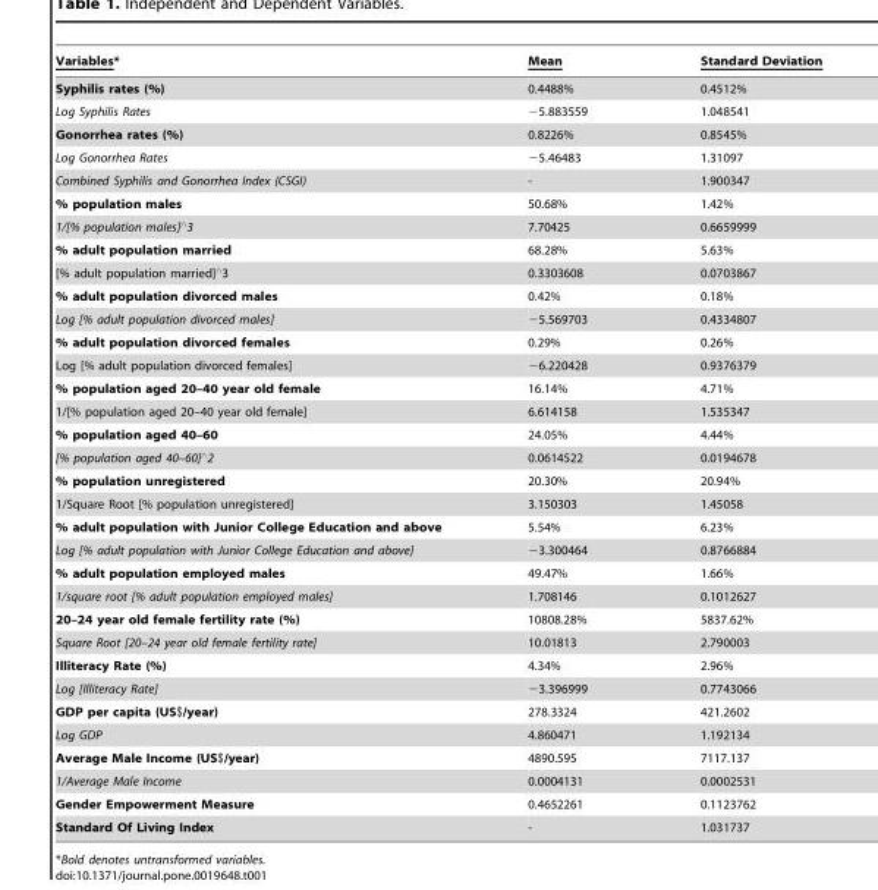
<table><thead><tr><td>Variables*</td><td>Mean</td><td>Standard Deviation</td></tr></thead><tbody><tr><td>Syphilis rates (%)</td><td>0.4488%</td><td>0.4512%</td></tr><tr><td>Log Syphilis Rates</td><td>−5.883559</td><td>1.048541</td></tr><tr><td>Gonorrhea rates (%)</td><td>0.8226%</td><td>0.8545%</td></tr><tr><td>Log Gonorrhea Rates</td><td>−5.46483</td><td>1.31097</td></tr><tr><td>Combined Syphilis and Gonorrhea Index (CSGI)</td><td>-</td><td>1.900347</td></tr><tr><td>% population males</td><td>50.68%</td><td>1.42%</td></tr><tr><td>1/[% population males]‘3</td><td>7.70425</td><td>0.6659999</td></tr><tr><td>% adult population married</td><td>68.28%</td><td>5.63%</td></tr><tr><td>[% adult population married]‘3</td><td>0.3303608</td><td>0.0703867</td></tr><tr><td>% adult population divorced males</td><td>0.42%</td><td>0.18%</td></tr><tr><td>Log [% adult population divorced males]</td><td>−5.569703</td><td>0.4334807</td></tr><tr><td>% adult population divorced females</td><td>0.29%</td><td>0.26%</td></tr><tr><td>Log [% adult population divorced females]</td><td>−6.220428</td><td>0.9376379</td></tr><tr><td>% population aged 20–40 year old female</td><td>16.14%</td><td>4.71%</td></tr><tr><td>1/[% population aged 20–40 year old female]</td><td>6.614158</td><td>1.535347</td></tr><tr><td>% population aged 40–60</td><td>24.05%</td><td>4.44%</td></tr><tr><td>[% population aged 40–60]‘2</td><td>0.0614522</td><td>0.0194678</td></tr><tr><td>% population unregistered</td><td>20.30%</td><td>20.94%</td></tr><tr><td>1/Square Root [% population unregistered]</td><td>3.150303</td><td>1.45058</td></tr><tr><td>% adult population with Junior College Education and above</td><td>5.54%</td><td>6.23%</td></tr><tr><td>Log [% adult population with Junior College Education and above]</td><td>−3.300464</td><td>0.8766884</td></tr><tr><td>% adult population employed males</td><td>49.47%</td><td>1.66%</td></tr><tr><td>1/square root [% adult population employed males]</td><td>1.708146</td><td>0.1012627</td></tr><tr><td>20–24 year old female fertility rate (%)</td><td>10808.28%</td><td>5837.62%</td></tr><tr><td>Square Root [20–24 year old female fertility rate]</td><td>10.01813</td><td>2.790003</td></tr><tr><td>Illiteracy Rate (%)</td><td>4.34%</td><td>2.96%</td></tr><tr><td>Log [Illiteracy Rate]</td><td>−3.396999</td><td>0.7743066</td></tr><tr><td>GDP per capita (US$/year)</td><td>278.3324</td><td>421.2602</td></tr><tr><td>Log GDP</td><td>4.860471</td><td>1.192134</td></tr><tr><td>Average Male Income (US$/year)</td><td>4890.595</td><td>7117.137</td></tr><tr><td>1/Average Male Income</td><td>0.0004131</td><td>0.0002531</td></tr><tr><td>Gender Empowerment Measure</td><td>0.4652261</td><td>0.1123762</td></tr><tr><td>Standard Of Living Index</td><td>-</td><td>1.031737</td></tr></tbody></table>